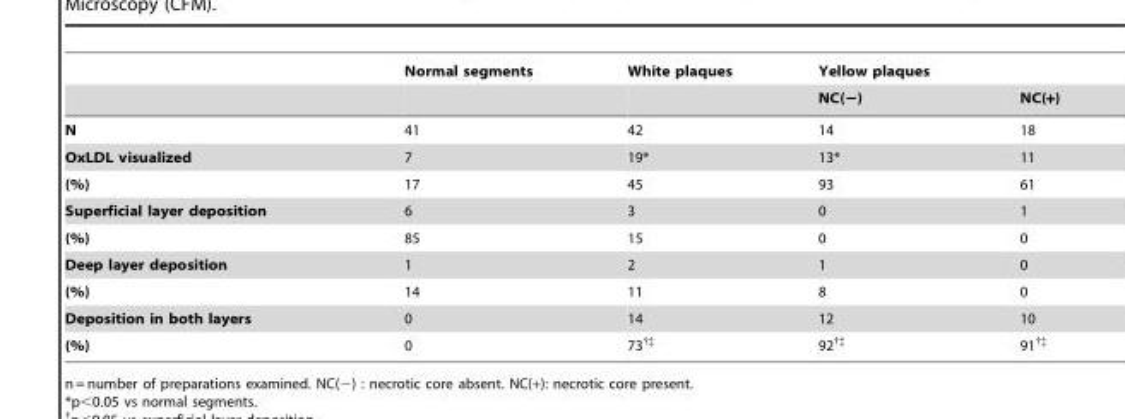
<table><thead><tr><td rowspan="2"></td><td rowspan="2">Normal segments</td><td rowspan="2">White plaques</td><td colspan="2">Yellow plaques</td></tr><tr><td>NC(−)</td><td>NC(+)</td></tr></thead><tbody><tr><td>N</td><td>41</td><td>42</td><td>14</td><td>18</td></tr><tr><td>OxLDL visualized</td><td>7</td><td>19*</td><td>13*</td><td>11</td></tr><tr><td>(%)</td><td>17</td><td>45</td><td>93</td><td>61</td></tr><tr><td>Superficial layer deposition</td><td>6</td><td>3</td><td>0</td><td>1</td></tr><tr><td>(%)</td><td>85</td><td>15</td><td>0</td><td>0</td></tr><tr><td>Deep layer deposition</td><td>1</td><td>2</td><td>1</td><td>0</td></tr><tr><td>(%)</td><td>14</td><td>11</td><td>8</td><td>0</td></tr><tr><td>Deposition in both layers</td><td>0</td><td>14</td><td>12</td><td>10</td></tr><tr><td>(%)</td><td>0</td><td>73†‡</td><td>92†‡</td><td>91†‡</td></tr></tbody></table>